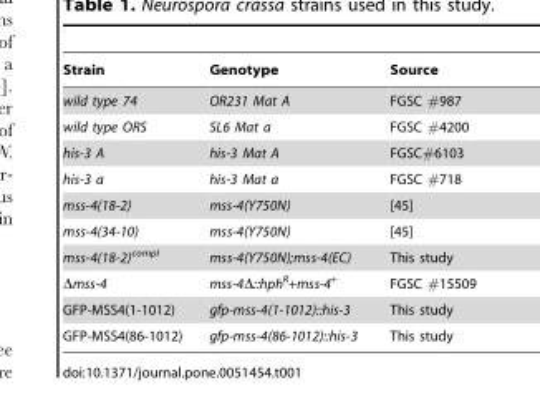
<table><thead><tr><td>Strain</td><td>Genotype</td><td>Source</td></tr></thead><tbody><tr><td>wild type 74</td><td>OR231 Mat A</td><td>FGSC #987</td></tr><tr><td>wild type ORS</td><td>SL6 Mat a</td><td>FGSC #4200</td></tr><tr><td>his-3 A</td><td>his-3 Mat A</td><td>FGSC#6103</td></tr><tr><td>his-3 a</td><td>his-3 Mat a</td><td>FGSC #718</td></tr><tr><td>mss-4(18-2)</td><td>mss-4(Y750N)</td><td>[45]</td></tr><tr><td>mss-4(34-10)</td><td>mss-4(Y750N)</td><td>[45]</td></tr><tr><td>mss-4(18-2)<sup>compl</sup></td><td>mss-4(Y750N);mss-4(EC)</td><td>This study</td></tr><tr><td>Δmss-4</td><td>mss-4Δ::hph<sup>R</sup>+mss-4<sup>+</sup></td><td>FGSC #15509</td></tr><tr><td>GFP-MSS4(1-1012)</td><td>gfp-mss-4(1-1012)::his-3</td><td>This study</td></tr><tr><td>GFP-MSS4(86-1012)</td><td>gfp-mss-4(86-1012)::his-3</td><td>This study</td></tr></tbody></table>